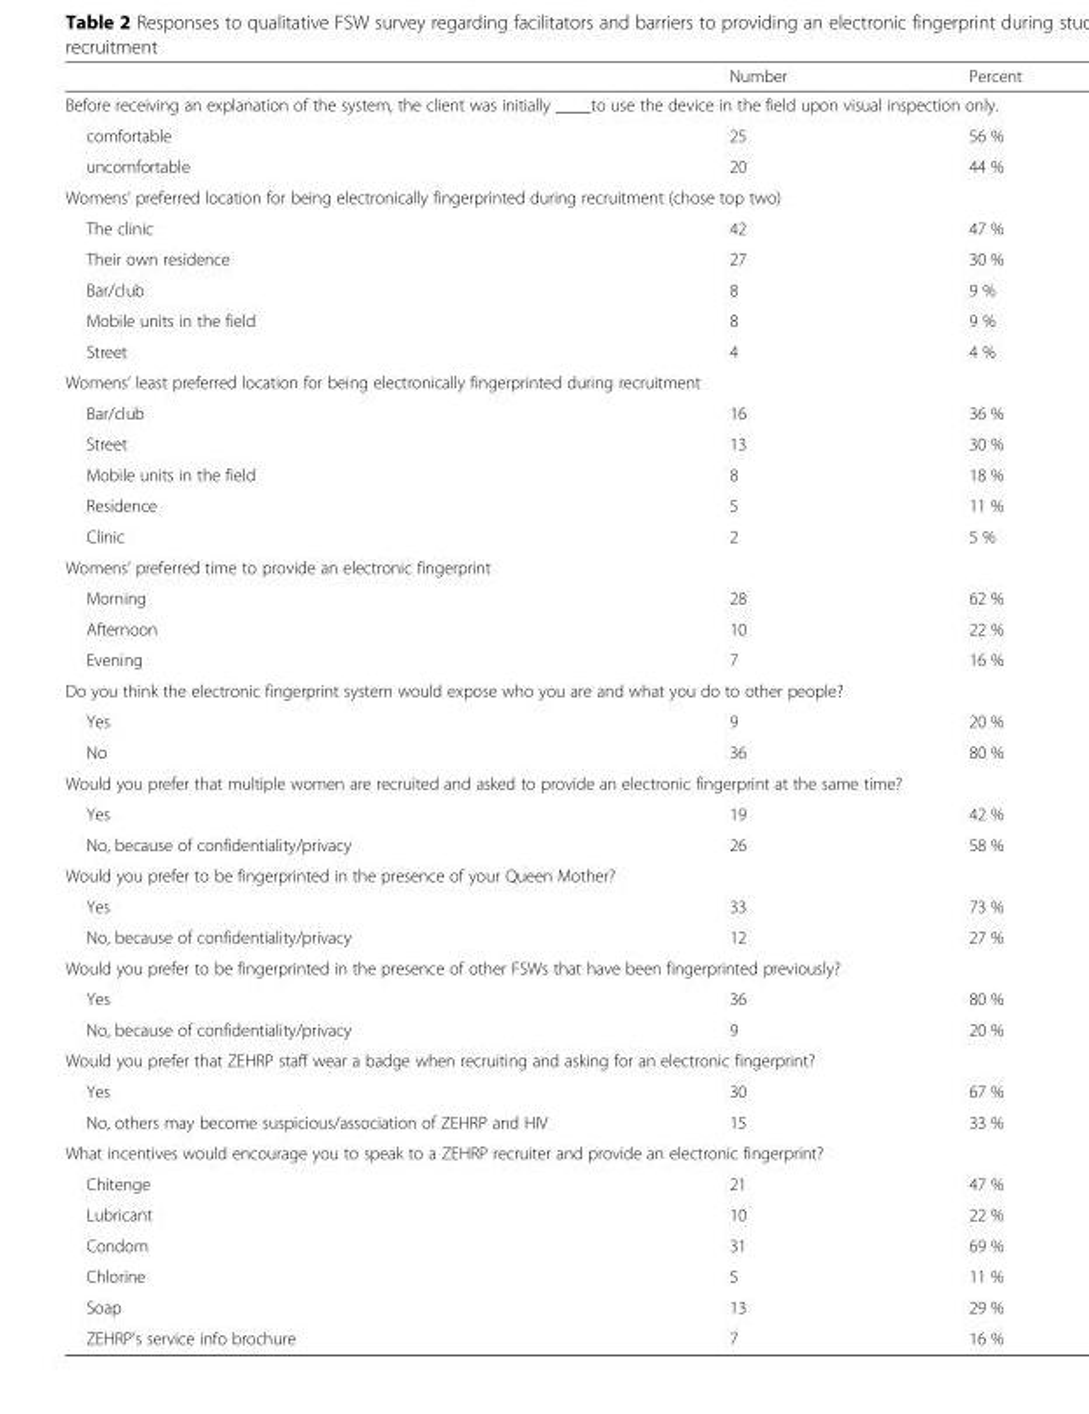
<table><thead><tr><td></td><td>Number</td><td>Percent</td></tr></thead><tbody><tr><td colspan="3">Before receiving an explanation of the system, the client was initially ____to use the device in the field upon visual inspection only.</td></tr><tr><td>comfortable</td><td>25</td><td>56 %</td></tr><tr><td>uncomfortable</td><td>20</td><td>44 %</td></tr><tr><td colspan="3">Womens’ preferred location for being electronically fingerprinted during recruitment (chose top two)</td></tr><tr><td>The clinic</td><td>42</td><td>47 %</td></tr><tr><td>Their own residence</td><td>27</td><td>30 %</td></tr><tr><td>Bar/club</td><td>8</td><td>9 %</td></tr><tr><td>Mobile units in the field</td><td>8</td><td>9 %</td></tr><tr><td>Street</td><td>4</td><td>4 %</td></tr><tr><td colspan="3">Womens’ least preferred location for being electronically fingerprinted during recruitment</td></tr><tr><td>Bar/club</td><td>16</td><td>36 %</td></tr><tr><td>Street</td><td>13</td><td>30 %</td></tr><tr><td>Mobile units in the field</td><td>8</td><td>18 %</td></tr><tr><td>Residence</td><td>5</td><td>11 %</td></tr><tr><td>Clinic</td><td>2</td><td>5 %</td></tr><tr><td colspan="3">Womens’ preferred time to provide an electronic fingerprint</td></tr><tr><td>Morning</td><td>28</td><td>62 %</td></tr><tr><td>Afternoon</td><td>10</td><td>22 %</td></tr><tr><td>Evening</td><td>7</td><td>16 %</td></tr><tr><td colspan="3">Do you think the electronic fingerprint system would expose who you are and what you do to other people?</td></tr><tr><td>Yes</td><td>9</td><td>20 %</td></tr><tr><td>No</td><td>36</td><td>80 %</td></tr><tr><td colspan="3">Would you prefer that multiple women are recruited and asked to provide an electronic fingerprint at the same time?</td></tr><tr><td>Yes</td><td>19</td><td>42 %</td></tr><tr><td>No, because of confidentiality/privacy</td><td>26</td><td>58 %</td></tr><tr><td colspan="3">Would you prefer to be fingerprinted in the presence of your Queen Mother?</td></tr><tr><td>Yes</td><td>33</td><td>73 %</td></tr><tr><td>No, because of confidentiality/privacy</td><td>12</td><td>27 %</td></tr><tr><td colspan="3">Would you prefer to be fingerprinted in the presence of other FSWs that have been fingerprinted previously?</td></tr><tr><td>Yes</td><td>36</td><td>80 %</td></tr><tr><td>No, because of confidentiality/privacy</td><td>9</td><td>20 %</td></tr><tr><td colspan="3">Would you prefer that ZEHRP staff wear a badge when recruiting and asking for an electronic fingerprint?</td></tr><tr><td>Yes</td><td>30</td><td>67 %</td></tr><tr><td>No, others may become suspicious/association of ZEHRP and HIV</td><td>15</td><td>33 %</td></tr><tr><td colspan="3">What incentives would encourage you to speak to a ZEHRP recruiter and provide an electronic fingerprint?</td></tr><tr><td>Chitenge</td><td>21</td><td>47 %</td></tr><tr><td>Lubricant</td><td>10</td><td>22 %</td></tr><tr><td>Condom</td><td>31</td><td>69 %</td></tr><tr><td>Chlorine</td><td>5</td><td>11 %</td></tr><tr><td>Soap</td><td>13</td><td>29 %</td></tr><tr><td>ZEHRP’s service info brochure</td><td>7</td><td>16 %</td></tr></tbody></table>